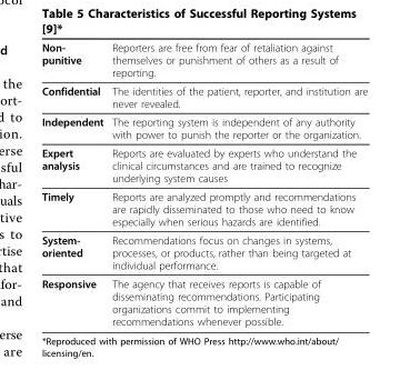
<table><thead><tr><td>Non- punitive</td><td>Reporters are free from fear of retaliation against themselves or punishment of others as a result of reporting.</td></tr></thead><tbody><tr><td>Confidential</td><td>The identities of the patient, reporter, and institution are never revealed.</td></tr><tr><td>Independent</td><td>The reporting system is independent of any authority with power to punish the reporter or the organization.</td></tr><tr><td>Expert analysis</td><td>Reports are evaluated by experts who understand the clinical circumstances and are trained to recognize underlying system causes</td></tr><tr><td>Timely</td><td>Reports are analyzed promptly and recommendations are rapidly disseminated to those who need to know especially when serious hazards are identified.</td></tr><tr><td>System- oriented</td><td>Recommendations focus on changes in systems, processes, or products, rather than being targeted at individual performance.</td></tr><tr><td>Responsive</td><td>The agency that receives reports is capable of disseminating recommendations. Participating organizations commit to implementing recommendations whenever possible.</td></tr></tbody></table>